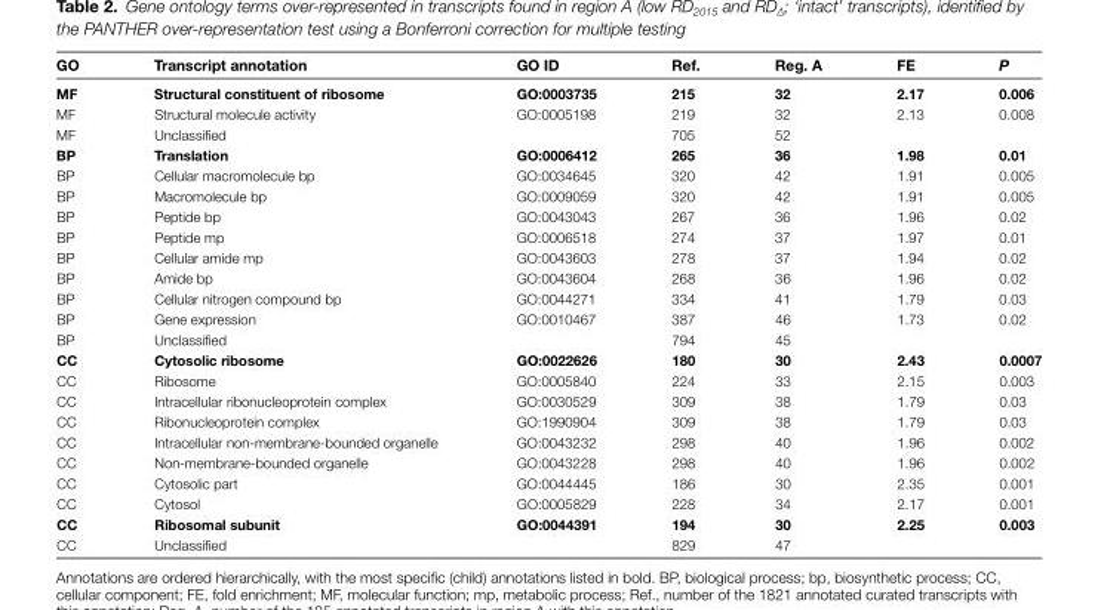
<table><thead><tr><td>GO</td><td>Transcript annotation</td><td>GO ID</td><td>Ref.</td><td>Reg. A</td><td>FE</td><td>P</td></tr></thead><tbody><tr><td>MF</td><td>Structural constituent of ribosome</td><td>GO:0003735</td><td>215</td><td>32</td><td>2.17</td><td>0.006</td></tr><tr><td>MF</td><td>Structural molecule activity</td><td>GO:0005198</td><td>219</td><td>32</td><td>2.13</td><td>0.008</td></tr><tr><td>MF</td><td>Unclassified</td><td></td><td>705</td><td>52</td><td></td><td></td></tr><tr><td>BP</td><td>Translation</td><td>GO:0006412</td><td>265</td><td>36</td><td>1.98</td><td>0.01</td></tr><tr><td>BP</td><td>Cellular macromolecule bp</td><td>GO:0034645</td><td>320</td><td>42</td><td>1.91</td><td>0.005</td></tr><tr><td>BP</td><td>Macromolecule bp</td><td>GO:0009059</td><td>320</td><td>42</td><td>1.91</td><td>0.005</td></tr><tr><td>BP</td><td>Peptide bp</td><td>GO:0043043</td><td>267</td><td>36</td><td>1.96</td><td>0.02</td></tr><tr><td>BP</td><td>Peptide mp</td><td>GO:0006518</td><td>274</td><td>37</td><td>1.97</td><td>0.01</td></tr><tr><td>BP</td><td>Cellular amide mp</td><td>GO:0043603</td><td>278</td><td>37</td><td>1.94</td><td>0.02</td></tr><tr><td>BP</td><td>Amide bp</td><td>GO:0043604</td><td>268</td><td>36</td><td>1.96</td><td>0.02</td></tr><tr><td>BP</td><td>Cellular nitrogen compound bp</td><td>GO:0044271</td><td>334</td><td>41</td><td>1.79</td><td>0.03</td></tr><tr><td>BP</td><td>Gene expression</td><td>GO:0010467</td><td>387</td><td>46</td><td>1.73</td><td>0.02</td></tr><tr><td>BP</td><td>Unclassified</td><td></td><td>794</td><td>45</td><td></td><td></td></tr><tr><td>CC</td><td>Cytosolic ribosome</td><td>GO:0022626</td><td>180</td><td>30</td><td>2.43</td><td>0.0007</td></tr><tr><td>CC</td><td>Ribosome</td><td>GO:0005840</td><td>224</td><td>33</td><td>2.15</td><td>0.003</td></tr><tr><td>CC</td><td>Intracellular ribonucleoprotein complex</td><td>GO:0030529</td><td>309</td><td>38</td><td>1.79</td><td>0.03</td></tr><tr><td>CC</td><td>Ribonucleoprotein complex</td><td>GO:1990904</td><td>309</td><td>38</td><td>1.79</td><td>0.03</td></tr><tr><td>CC</td><td>Intracellular non-membrane-bounded organelle</td><td>GO:0043232</td><td>298</td><td>40</td><td>1.96</td><td>0.002</td></tr><tr><td>CC</td><td>Non-membrane-bounded organelle</td><td>GO:0043228</td><td>298</td><td>40</td><td>1.96</td><td>0.002</td></tr><tr><td>CC</td><td>Cytosolic part</td><td>GO:0044445</td><td>186</td><td>30</td><td>2.35</td><td>0.001</td></tr><tr><td>CC</td><td>Cytosol</td><td>GO:0005829</td><td>228</td><td>34</td><td>2.17</td><td>0.001</td></tr><tr><td>CC</td><td>Ribosomal subunit</td><td>GO:0044391</td><td>194</td><td>30</td><td>2.25</td><td>0.003</td></tr><tr><td>CC</td><td>Unclassified</td><td></td><td>829</td><td>47</td><td></td><td></td></tr></tbody></table>